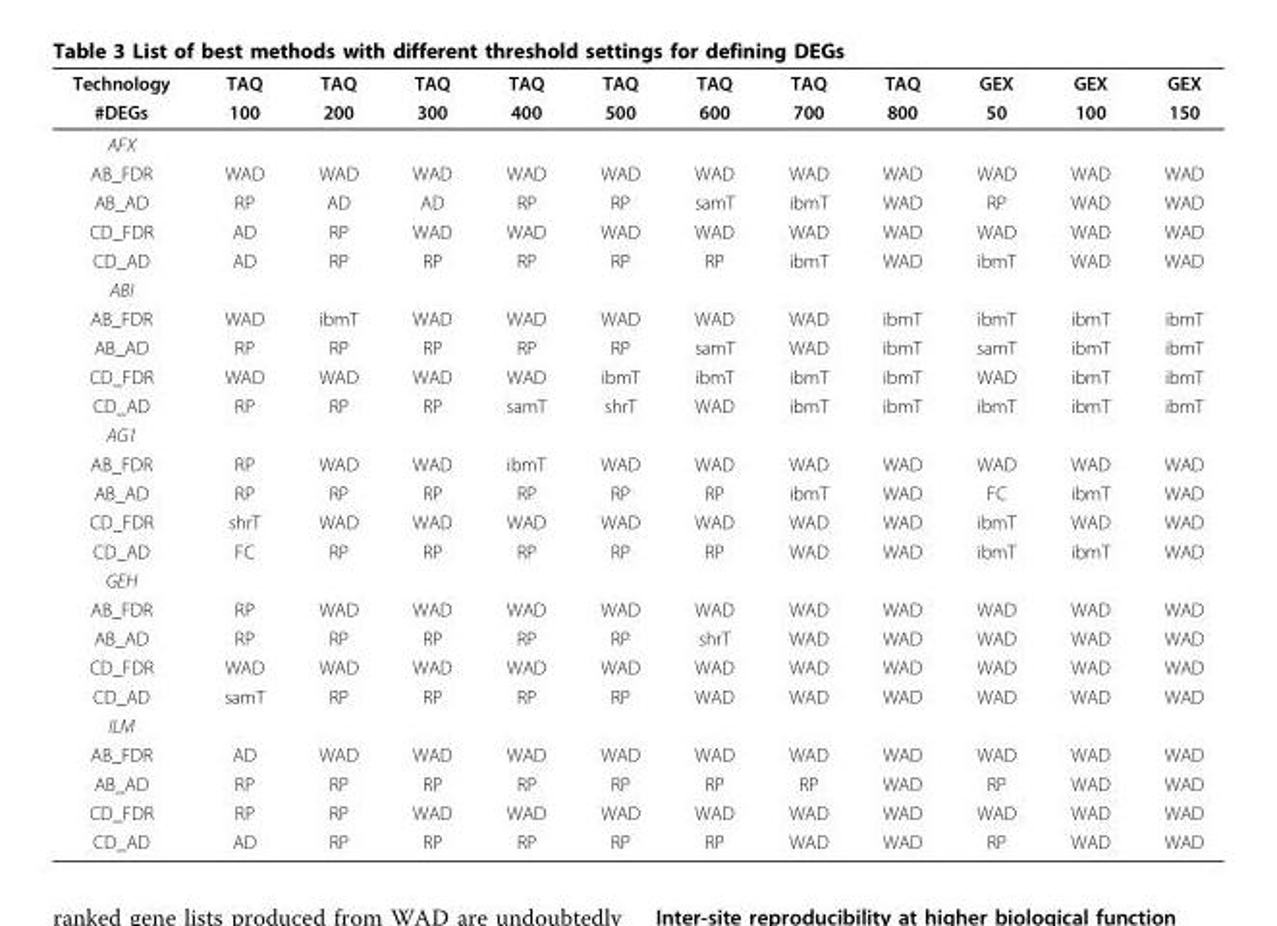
<table><thead><tr><td rowspan="2">Technology #DEGs</td><td rowspan="2">TAQ 100</td><td rowspan="2">TAQ 200</td><td rowspan="2">TAQ 300</td><td rowspan="2">TAQ 400</td><td rowspan="2">TAQ 500</td><td rowspan="2">TAQ 600</td><td rowspan="2">TAQ 700</td><td rowspan="2">TAQ 800</td><td rowspan="2">GEX 50</td><td rowspan="2">GEX 100</td><td rowspan="2">GEX 150</td></tr><tr></tr></thead><tbody><tr><td colspan="12">AFX</td></tr><tr><td>AB_FDR</td><td>WAD</td><td>WAD</td><td>WAD</td><td>WAD</td><td>WAD</td><td>WAD</td><td>WAD</td><td>WAD</td><td>WAD</td><td>WAD</td><td>WAD</td></tr><tr><td>AB_AD</td><td>RP</td><td>AD</td><td>AD</td><td>RP</td><td>RP</td><td>samT</td><td>ibmT</td><td>WAD</td><td>RP</td><td>WAD</td><td>WAD</td></tr><tr><td>CD_FDR</td><td>AD</td><td>RP</td><td>WAD</td><td>WAD</td><td>WAD</td><td>WAD</td><td>WAD</td><td>WAD</td><td>WAD</td><td>WAD</td><td>WAD</td></tr><tr><td>CD_AD</td><td>AD</td><td>RP</td><td>RP</td><td>RP</td><td>RP</td><td>RP</td><td>ibmT</td><td>WAD</td><td>ibmT</td><td>WAD</td><td>WAD</td></tr><tr><td colspan="12">ABI</td></tr><tr><td>AB_FDR</td><td>WAD</td><td>ibmT</td><td>WAD</td><td>WAD</td><td>WAD</td><td>WAD</td><td>WAD</td><td>ibmT</td><td>ibmT</td><td>ibmT</td><td>ibmT</td></tr><tr><td>AB_AD</td><td>RP</td><td>RP</td><td>RP</td><td>RP</td><td>RP</td><td>samT</td><td>WAD</td><td>ibmT</td><td>samT</td><td>ibmT</td><td>ibmT</td></tr><tr><td>CD_FDR</td><td>WAD</td><td>WAD</td><td>WAD</td><td>WAD</td><td>ibmT</td><td>ibmT</td><td>ibmT</td><td>ibmT</td><td>WAD</td><td>ibmT</td><td>ibmT</td></tr><tr><td>CD_AD</td><td>RP</td><td>RP</td><td>RP</td><td>samT</td><td>shrT</td><td>WAD</td><td>ibmT</td><td>ibmT</td><td>ibmT</td><td>ibmT</td><td>ibmT</td></tr><tr><td colspan="12">AG1</td></tr><tr><td>AB_FDR</td><td>RP</td><td>WAD</td><td>WAD</td><td>ibmT</td><td>WAD</td><td>WAD</td><td>WAD</td><td>WAD</td><td>WAD</td><td>WAD</td><td>WAD</td></tr><tr><td>AB_AD</td><td>RP</td><td>RP</td><td>RP</td><td>RP</td><td>RP</td><td>RP</td><td>ibmT</td><td>WAD</td><td>FC</td><td>ibmT</td><td>WAD</td></tr><tr><td>CD_FDR</td><td>shrT</td><td>WAD</td><td>WAD</td><td>WAD</td><td>WAD</td><td>WAD</td><td>WAD</td><td>WAD</td><td>ibmT</td><td>WAD</td><td>WAD</td></tr><tr><td>CD_AD</td><td>FC</td><td>RP</td><td>RP</td><td>RP</td><td>RP</td><td>RP</td><td>WAD</td><td>WAD</td><td>ibmT</td><td>ibmT</td><td>WAD</td></tr><tr><td colspan="12">GEH</td></tr><tr><td>AB_FDR</td><td>RP</td><td>WAD</td><td>WAD</td><td>WAD</td><td>WAD</td><td>WAD</td><td>WAD</td><td>WAD</td><td>WAD</td><td>WAD</td><td>WAD</td></tr><tr><td>AB_AD</td><td>RP</td><td>RP</td><td>RP</td><td>RP</td><td>RP</td><td>shrT</td><td>WAD</td><td>WAD</td><td>WAD</td><td>WAD</td><td>WAD</td></tr><tr><td>CD_FDR</td><td>WAD</td><td>WAD</td><td>WAD</td><td>WAD</td><td>WAD</td><td>WAD</td><td>WAD</td><td>WAD</td><td>WAD</td><td>WAD</td><td>WAD</td></tr><tr><td>CD_AD</td><td>samT</td><td>RP</td><td>RP</td><td>RP</td><td>RP</td><td>WAD</td><td>WAD</td><td>WAD</td><td>WAD</td><td>WAD</td><td>WAD</td></tr><tr><td colspan="12">ILM</td></tr><tr><td>AB_FDR</td><td>AD</td><td>WAD</td><td>WAD</td><td>WAD</td><td>WAD</td><td>WAD</td><td>WAD</td><td>WAD</td><td>WAD</td><td>WAD</td><td>WAD</td></tr><tr><td>AB_AD</td><td>RP</td><td>RP</td><td>RP</td><td>RP</td><td>RP</td><td>RP</td><td>RP</td><td>WAD</td><td>RP</td><td>WAD</td><td>WAD</td></tr><tr><td>CD_FDR</td><td>RP</td><td>RP</td><td>WAD</td><td>WAD</td><td>WAD</td><td>WAD</td><td>WAD</td><td>WAD</td><td>WAD</td><td>WAD</td><td>WAD</td></tr><tr><td>CD_AD</td><td>AD</td><td>RP</td><td>RP</td><td>RP</td><td>RP</td><td>RP</td><td>WAD</td><td>WAD</td><td>RP</td><td>WAD</td><td>WAD</td></tr></tbody></table>